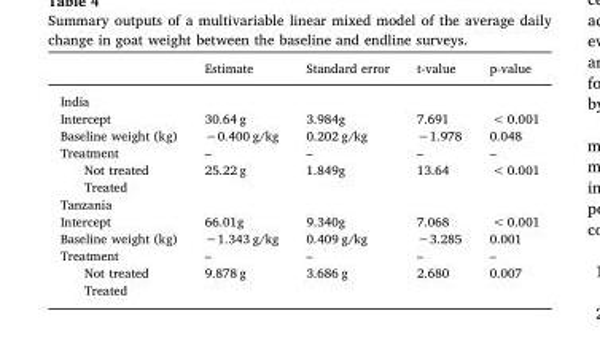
<table><thead><tr><td></td><td>Estimate</td><td>Standard error</td><td>t-value</td><td>p-value</td></tr></thead><tbody><tr><td colspan="5">India</td></tr><tr><td>Intercept</td><td>30.64 g</td><td>3.984g</td><td>7.691</td><td>&lt; 0.001</td></tr><tr><td>Baseline weight (kg)</td><td>−0.400 g/kg</td><td>0.202 g/kg</td><td>−1.978</td><td>0.048</td></tr><tr><td>Treatment Not treated Treated</td><td>– 25.22 g</td><td>– 1.849g</td><td>– 13.64</td><td>– &lt; 0.001</td></tr><tr><td colspan="5">Tanzania</td></tr><tr><td>Intercept</td><td>66.01g</td><td>9.340g</td><td>7.068</td><td>&lt; 0.001</td></tr><tr><td>Baseline weight (kg)</td><td>−1.343 g/kg</td><td>0.409 g/kg</td><td>−3.285</td><td>0.001</td></tr><tr><td>Treatment Not treated Treated</td><td>– 9.878 g</td><td>– 3.686 g</td><td>– 2.680</td><td>– 0.007</td></tr></tbody></table>